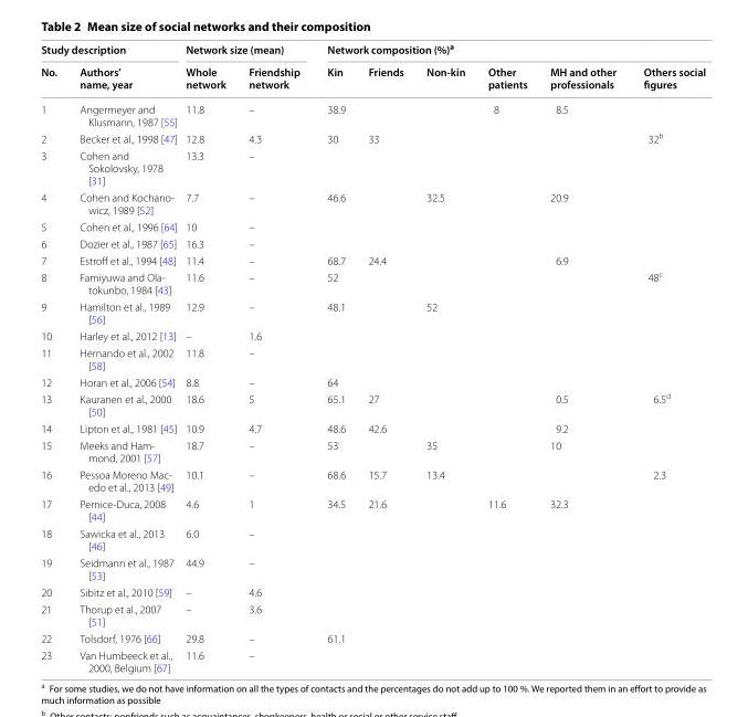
<table><thead><tr><td colspan="2">Study description</td><td colspan="2">Network size (mean)</td><td colspan="6">Network composition (%)<sup>a</sup></td></tr><tr><td>No.</td><td>Authors’ name, year</td><td>Whole network</td><td>Friendship network</td><td>Kin</td><td>Friends</td><td>Non-kin</td><td>Other patients</td><td>MH and other professionals</td><td>Others social figures</td></tr></thead><tbody><tr><td>1</td><td>Angermeyer and Klusmann, 1987 [55]</td><td>11.8</td><td>–</td><td>38.9</td><td></td><td></td><td>8</td><td>8.5</td><td></td></tr><tr><td>2</td><td>Becker et al., 1998 [47]</td><td>12.8</td><td>4.3</td><td>30</td><td>33</td><td></td><td></td><td></td><td>32<sup>b</sup></td></tr><tr><td>3</td><td>Cohen and Sokolovsky, 1978 [31]</td><td>13.3</td><td>–</td><td></td><td></td><td></td><td></td><td></td><td></td></tr><tr><td>4</td><td>Cohen and Kochano- wicz, 1989 [52]</td><td>7.7</td><td>–</td><td>46.6</td><td></td><td>32.5</td><td></td><td>20.9</td><td></td></tr><tr><td>5</td><td>Cohen et al., 1996 [64]</td><td>10</td><td>–</td><td></td><td></td><td></td><td></td><td></td><td></td></tr><tr><td>6</td><td>Dozier et al., 1987 [65]</td><td>16.3</td><td>–</td><td></td><td></td><td></td><td></td><td></td><td></td></tr><tr><td>7</td><td>Estroff et al., 1994 [48]</td><td>11.4</td><td>–</td><td>68.7</td><td>24.4</td><td></td><td></td><td>6.9</td><td></td></tr><tr><td>8</td><td>Famiyuwa and Ola- tokunbo, 1984 [43]</td><td>11.6</td><td>–</td><td>52</td><td></td><td></td><td></td><td></td><td>48<sup>c</sup></td></tr><tr><td>9</td><td>Hamilton et al., 1989 [56]</td><td>12.9</td><td>–</td><td>48.1</td><td></td><td>52</td><td></td><td></td><td></td></tr><tr><td>10</td><td>Harley et al., 2012 [13]</td><td>–</td><td>1.6</td><td></td><td></td><td></td><td></td><td></td><td></td></tr><tr><td>11</td><td>Hernando et al., 2002 [58]</td><td>11.8</td><td>–</td><td></td><td></td><td></td><td></td><td></td><td></td></tr><tr><td>12</td><td>Horan et al., 2006 [54]</td><td>8.8</td><td>–</td><td>64</td><td></td><td></td><td></td><td></td><td></td></tr><tr><td>13</td><td>Kauranen et al., 2000 [50]</td><td>18.6</td><td>5</td><td>65.1</td><td>27</td><td></td><td></td><td>0.5</td><td>6.5<sup>d</sup></td></tr><tr><td>14</td><td>Lipton et al., 1981 [45]</td><td>10.9</td><td>4.7</td><td>48.6</td><td>42.6</td><td></td><td></td><td>9.2</td><td></td></tr><tr><td>15</td><td>Meeks and Ham- mond, 2001 [57]</td><td>18.7</td><td>–</td><td>53</td><td></td><td>35</td><td></td><td>10</td><td></td></tr><tr><td>16</td><td>Pessoa Moreno Mac- edo et al., 2013 [49]</td><td>10.1</td><td>–</td><td>68.6</td><td>15.7</td><td>13.4</td><td></td><td></td><td>2.3</td></tr><tr><td>17</td><td>Pernice-Duca, 2008 [44]</td><td>4.6</td><td>1</td><td>34.5</td><td>21.6</td><td></td><td>11.6</td><td>32.3</td><td></td></tr><tr><td>18</td><td>Sawicka et al., 2013 [46]</td><td>6.0</td><td>–</td><td></td><td></td><td></td><td></td><td></td><td></td></tr><tr><td>19</td><td>Seidmann et al., 1987 [53]</td><td>44.9</td><td>–</td><td></td><td></td><td></td><td></td><td></td><td></td></tr><tr><td>20</td><td>Sibitz et al., 2010 [59]</td><td>–</td><td>4.6</td><td></td><td></td><td></td><td></td><td></td><td></td></tr><tr><td>21</td><td>Thorup et al., 2007 [51]</td><td>–</td><td>3.6</td><td></td><td></td><td></td><td></td><td></td><td></td></tr><tr><td>22</td><td>Tolsdorf, 1976 [66]</td><td>29.8</td><td>–</td><td>61.1</td><td></td><td></td><td></td><td></td><td></td></tr><tr><td>23</td><td>Van Humbeeck et al., 2000, Belgium [67]</td><td>11.6</td><td>–</td><td></td><td></td><td></td><td></td><td></td><td></td></tr></tbody></table>